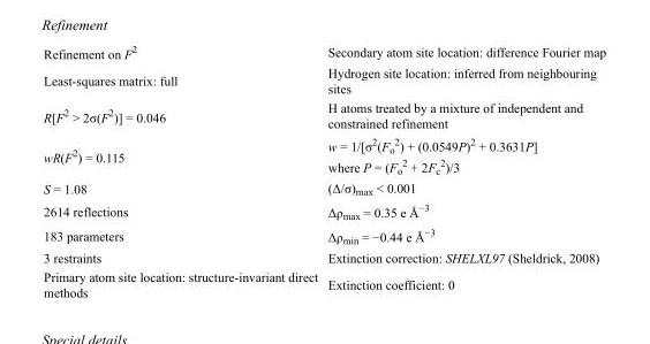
<table><tbody><tr><td>Refinement on F<sup>2</sup></td><td>Secondary atom site location: difference Fourier map</td></tr><tr><td>Least-squares matrix: full</td><td>Hydrogen site location: inferred from neighbouring sites</td></tr><tr><td>R[F<sup>2</sup> &gt; 2σ(F<sup>2</sup>)] = 0.046</td><td>H atoms treated by a mixture of independent and constrained refinement</td></tr><tr><td>wR(F<sup>2</sup>) = 0.115</td><td>w = 1/[σ<sup>2</sup>(F<sub>o</sub> <sup>2</sup>) + (0.0549P)<sup>2</sup> + 0.3631P] where P = (F<sub>o</sub> <sup>2</sup> + 2F<sub>c</sub> <sup>2</sup>)/3</td></tr><tr><td>S = 1.08</td><td>(Δ/σ)<sub>max</sub> &lt; 0.001</td></tr><tr><td>2614 reflections</td><td>Δρ<sub>max</sub> = 0.35 e Å<sup>−3</sup></td></tr><tr><td>183 parameters</td><td>Δρ<sub>min</sub> = −0.44 e Å<sup>−3</sup></td></tr><tr><td>3 restraints</td><td>Extinction correction: SHELXL97 (Sheldrick, 2008)</td></tr><tr><td>Primary atom site location: structure-invariant direct methods</td><td>Extinction coefficient: 0</td></tr></tbody></table>